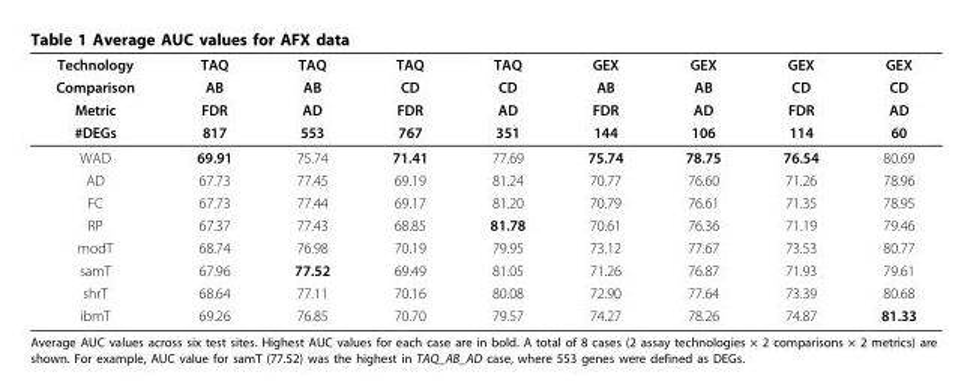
<table><thead><tr><td rowspan="4">Technology Comparison Metric #DEGs</td><td rowspan="4">TAQ AB FDR 817</td><td rowspan="4">TAQ AB AD 553</td><td rowspan="4">TAQ CD FDR 767</td><td rowspan="4">TAQ CD AD 351</td><td rowspan="4">GEX AB FDR 144</td><td rowspan="4">GEX AB AD 106</td><td rowspan="4">GEX CD FDR 114</td><td rowspan="4">GEX CD AD 60</td></tr><tr></tr><tr></tr><tr></tr></thead><tbody><tr><td>WAD</td><td>69.91</td><td>75.74</td><td>71.41</td><td>77.69</td><td>75.74</td><td>78.75</td><td>76.54</td><td>80.69</td></tr><tr><td>AD</td><td>67.73</td><td>77.45</td><td>69.19</td><td>81.24</td><td>70.77</td><td>76.60</td><td>71.26</td><td>78.96</td></tr><tr><td>FC</td><td>67.73</td><td>77.44</td><td>69.17</td><td>81.20</td><td>70.79</td><td>76.61</td><td>71.35</td><td>78.95</td></tr><tr><td>RP</td><td>67.37</td><td>77.43</td><td>68.85</td><td>81.78</td><td>70.61</td><td>76.36</td><td>71.19</td><td>79.46</td></tr><tr><td>modT</td><td>68.74</td><td>76.98</td><td>70.19</td><td>79.95</td><td>73.12</td><td>77.67</td><td>73.53</td><td>80.77</td></tr><tr><td>samT</td><td>67.96</td><td>77.52</td><td>69.49</td><td>81.05</td><td>71.26</td><td>76.87</td><td>71.93</td><td>79.61</td></tr><tr><td>shrT</td><td>68.64</td><td>77.11</td><td>70.16</td><td>80.08</td><td>72.90</td><td>77.64</td><td>73.39</td><td>80.68</td></tr><tr><td>ibmT</td><td>69.26</td><td>76.85</td><td>70.70</td><td>79.57</td><td>74.27</td><td>78.26</td><td>74.87</td><td>81.33</td></tr></tbody></table>